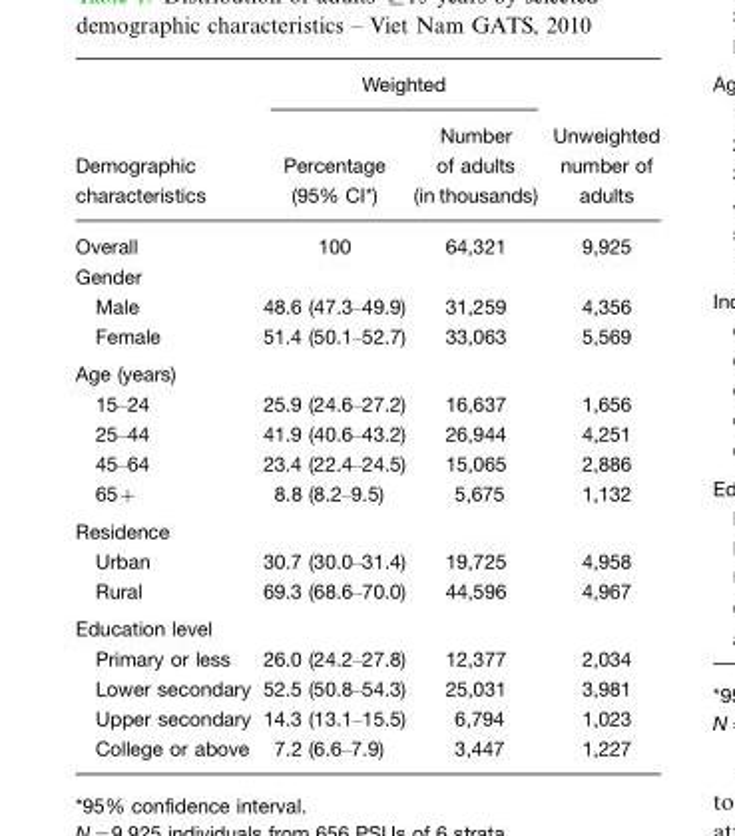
<table><thead><tr><td rowspan="2">Demographic characteristics</td><td colspan="2">Weighted</td><td rowspan="2">Unweighted number of adults</td></tr><tr><td>Percentage (95% CI*)</td><td>Number of adults (in thousands)</td></tr></thead><tbody><tr><td>Overall</td><td>100</td><td>64,321</td><td>9,925</td></tr><tr><td colspan="4">Gender</td></tr><tr><td>Male</td><td>48.6 (47.3–49.9)</td><td>31,259</td><td>4,356</td></tr><tr><td>Female</td><td>51.4 (50.1–52.7)</td><td>33,063</td><td>5,569</td></tr><tr><td colspan="4">Age (years)</td></tr><tr><td>15–24</td><td>25.9 (24.6–27.2)</td><td>16,637</td><td>1,656</td></tr><tr><td>25–44</td><td>41.9 (40.6–43.2)</td><td>26,944</td><td>4,251</td></tr><tr><td>45–64</td><td>23.4 (22.4–24.5)</td><td>15,065</td><td>2,886</td></tr><tr><td>65+</td><td>8.8 (8.2–9.5)</td><td>5,675</td><td>1,132</td></tr><tr><td colspan="4">Residence</td></tr><tr><td>Urban</td><td>30.7 (30.0–31.4)</td><td>19,725</td><td>4,958</td></tr><tr><td>Rural</td><td>69.3 (68.6–70.0)</td><td>44,596</td><td>4,967</td></tr><tr><td colspan="4">Education level</td></tr><tr><td>Primary or less</td><td>26.0 (24.2–27.8)</td><td>12,377</td><td>2,034</td></tr><tr><td>Lower secondary</td><td>52.5 (50.8–54.3)</td><td>25,031</td><td>3,981</td></tr><tr><td>Upper secondary</td><td>14.3 (13.1–15.5)</td><td>6,794</td><td>1,023</td></tr><tr><td>College or above</td><td>7.2 (6.6–7.9)</td><td>3,447</td><td>1,227</td></tr></tbody></table>